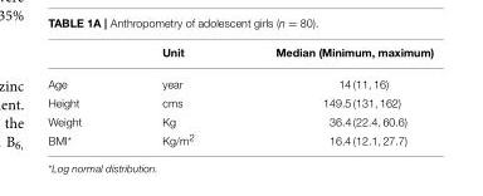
<table><thead><tr><td></td><td>Unit</td><td>Median (Minimum, maximum)</td></tr></thead><tbody><tr><td>Age</td><td>year</td><td>14 (11, 16)</td></tr><tr><td>Height</td><td>cms</td><td>149.5 (131, 162)</td></tr><tr><td>Weight</td><td>Kg</td><td>36.4 (22.4, 60.6)</td></tr><tr><td>BMI*</td><td>Kg/m<sup>2</sup></td><td>16.4 (12.1, 27.7)</td></tr></tbody></table>